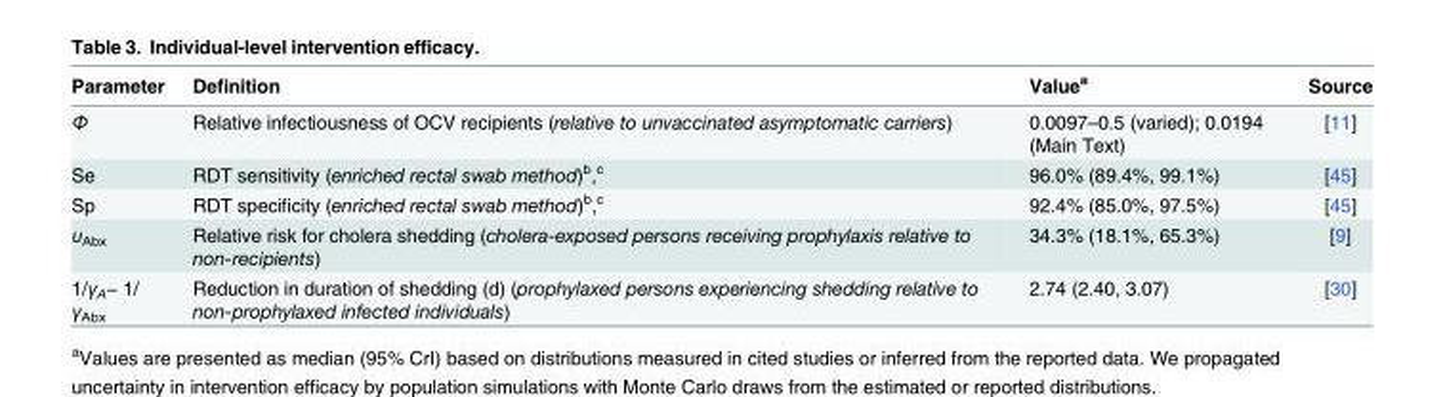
<table><thead><tr><td>Parameter</td><td>Definition</td><td>Value<sup>a</sup></td><td>Source</td></tr></thead><tbody><tr><td>Φ</td><td>Relative infectiousness of OCV recipients (relative to unvaccinated asymptomatic carriers)</td><td>0.0097–0.5 (varied); 0.0194 (Main Text)</td><td>[11]</td></tr><tr><td>Se</td><td>RDT sensitivity (enriched rectal swab method)<sup>b</sup>,<sup>c</sup></td><td>96.0% (89.4%, 99.1%)</td><td>[45]</td></tr><tr><td>Sp</td><td>RDT specificity (enriched rectal swab method)<sup>b</sup>,<sup>c</sup></td><td>92.4% (85.0%, 97.5%)</td><td>[45]</td></tr><tr><td>υ<sub>Abx</sub></td><td>Relative risk for cholera shedding (cholera-exposed persons receiving prophylaxis relative to non-recipients)</td><td>34.3% (18.1%, 65.3%)</td><td>[9]</td></tr><tr><td>1/γ<sub>A</sub>− 1/ γ<sub>Abx</sub></td><td>Reduction in duration of shedding (d) (prophylaxed persons experiencing shedding relative to non-prophylaxed infected individuals)</td><td>2.74 (2.40, 3.07)</td><td>[30]</td></tr></tbody></table>